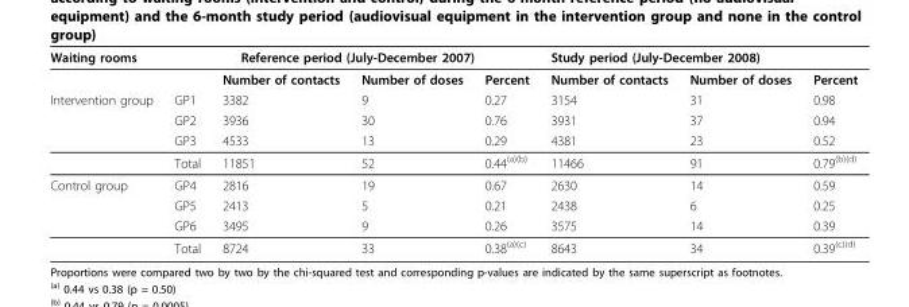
<table><thead><tr><td rowspan="2">Waiting rooms</td><td colspan="4">Reference period (July-December 2007)</td><td colspan="3">Study period (July-December 2008)</td></tr><tr><td></td><td>Number of contacts</td><td>Number of doses</td><td>Percent</td><td>Number of contacts</td><td>Number of doses</td><td>Percent</td></tr></thead><tbody><tr><td rowspan="4">Intervention group</td><td>GP1</td><td>3382</td><td>9</td><td>0.27</td><td>3154</td><td>31</td><td>0.98</td></tr><tr><td>GP2</td><td>3936</td><td>30</td><td>0.76</td><td>3931</td><td>37</td><td>0.94</td></tr><tr><td>GP3</td><td>4533</td><td>13</td><td>0.29</td><td>4381</td><td>23</td><td>0.52</td></tr><tr><td>Total</td><td>11851</td><td>52</td><td>0.44<sup>(a)(b)</sup></td><td>11466</td><td>91</td><td>0.79<sup>(b)(d)</sup></td></tr><tr><td rowspan="4">Control group</td><td>GP4</td><td>2816</td><td>19</td><td>0.67</td><td>2630</td><td>14</td><td>0.59</td></tr><tr><td>GP5</td><td>2413</td><td>5</td><td>0.21</td><td>2438</td><td>6</td><td>0.25</td></tr><tr><td>GP6</td><td>3495</td><td>9</td><td>0.26</td><td>3575</td><td>14</td><td>0.39</td></tr><tr><td>Total</td><td>8724</td><td>33</td><td>0.38<sup>(a)(c)</sup></td><td>8643</td><td>34</td><td>0.39<sup>(c)(d)</sup></td></tr></tbody></table>